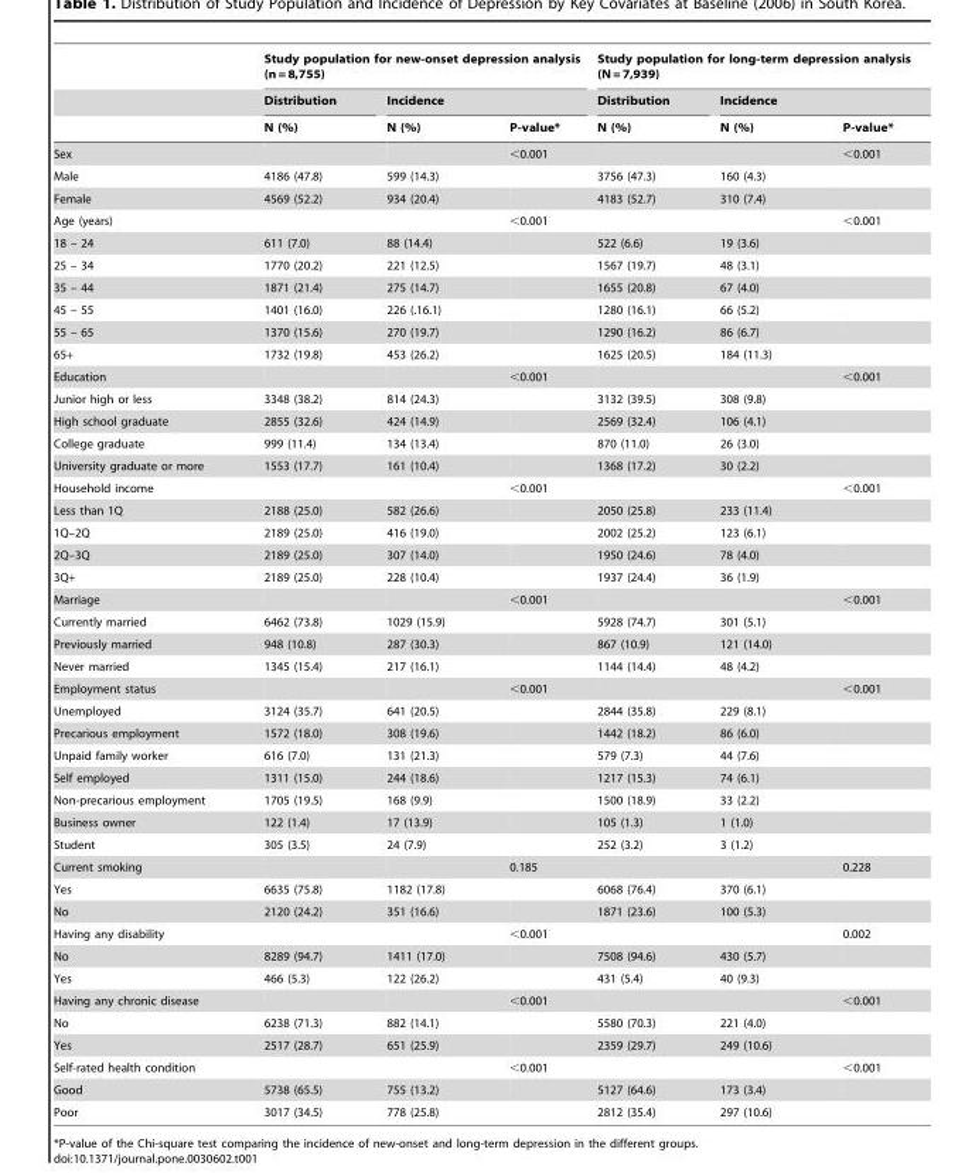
<table><thead><tr><td rowspan="3"></td><td colspan="3">Study population for new-onset depression analysis (n = 8,755)</td><td colspan="3">Study population for long-term depression analysis (N = 7,939)</td></tr><tr><td rowspan="2">Distribution N (%)</td><td colspan="2">Incidence</td><td rowspan="2">Distribution N (%)</td><td colspan="2">Incidence</td></tr><tr><td>N (%)</td><td>P-value*</td><td>N (%)</td><td>P-value*</td></tr></thead><tbody><tr><td>Sex</td><td></td><td></td><td>&lt;0.001</td><td></td><td></td><td>&lt;0.001</td></tr><tr><td>Male</td><td>4186 (47.8)</td><td>599 (14.3)</td><td></td><td>3756 (47.3)</td><td>160 (4.3)</td><td></td></tr><tr><td>Female</td><td>4569 (52.2)</td><td>934 (20.4)</td><td></td><td>4183 (52.7)</td><td>310 (7.4)</td><td></td></tr><tr><td>Age (years)</td><td></td><td></td><td>&lt;0.001</td><td></td><td></td><td>&lt;0.001</td></tr><tr><td>18 – 24</td><td>611 (7.0)</td><td>88 (14.4)</td><td></td><td>522 (6.6)</td><td>19 (3.6)</td><td></td></tr><tr><td>25 – 34</td><td>1770 (20.2)</td><td>221 (12.5)</td><td></td><td>1567 (19.7)</td><td>48 (3.1)</td><td></td></tr><tr><td>35 – 44</td><td>1871 (21.4)</td><td>275 (14.7)</td><td></td><td>1655 (20.8)</td><td>67 (4.0)</td><td></td></tr><tr><td>45 – 55</td><td>1401 (16.0)</td><td>226 (.16.1)</td><td></td><td>1280 (16.1)</td><td>66 (5.2)</td><td></td></tr><tr><td>55 – 65</td><td>1370 (15.6)</td><td>270 (19.7)</td><td></td><td>1290 (16.2)</td><td>86 (6.7)</td><td></td></tr><tr><td>65+</td><td>1732 (19.8)</td><td>453 (26.2)</td><td></td><td>1625 (20.5)</td><td>184 (11.3)</td><td></td></tr><tr><td>Education</td><td></td><td></td><td>&lt;0.001</td><td></td><td></td><td>&lt;0.001</td></tr><tr><td>Junior high or less</td><td>3348 (38.2)</td><td>814 (24.3)</td><td></td><td>3132 (39.5)</td><td>308 (9.8)</td><td></td></tr><tr><td>High school graduate</td><td>2855 (32.6)</td><td>424 (14.9)</td><td></td><td>2569 (32.4)</td><td>106 (4.1)</td><td></td></tr><tr><td>College graduate</td><td>999 (11.4)</td><td>134 (13.4)</td><td></td><td>870 (11.0)</td><td>26 (3.0)</td><td></td></tr><tr><td>University graduate or more</td><td>1553 (17.7)</td><td>161 (10.4)</td><td></td><td>1368 (17.2)</td><td>30 (2.2)</td><td></td></tr><tr><td>Household income</td><td></td><td></td><td>&lt;0.001</td><td></td><td></td><td>&lt;0.001</td></tr><tr><td>Less than 1Q</td><td>2188 (25.0)</td><td>582 (26.6)</td><td></td><td>2050 (25.8)</td><td>233 (11.4)</td><td></td></tr><tr><td>1Q–2Q</td><td>2189 (25.0)</td><td>416 (19.0)</td><td></td><td>2002 (25.2)</td><td>123 (6.1)</td><td></td></tr><tr><td>2Q–3Q</td><td>2189 (25.0)</td><td>307 (14.0)</td><td></td><td>1950 (24.6)</td><td>78 (4.0)</td><td></td></tr><tr><td>3Q+</td><td>2189 (25.0)</td><td>228 (10.4)</td><td></td><td>1937 (24.4)</td><td>36 (1.9)</td><td></td></tr><tr><td>Marriage</td><td></td><td></td><td>&lt;0.001</td><td></td><td></td><td>&lt;0.001</td></tr><tr><td>Currently married</td><td>6462 (73.8)</td><td>1029 (15.9)</td><td></td><td>5928 (74.7)</td><td>301 (5.1)</td><td></td></tr><tr><td>Previously married</td><td>948 (10.8)</td><td>287 (30.3)</td><td></td><td>867 (10.9)</td><td>121 (14.0)</td><td></td></tr><tr><td>Never married</td><td>1345 (15.4)</td><td>217 (16.1)</td><td></td><td>1144 (14.4)</td><td>48 (4.2)</td><td></td></tr><tr><td>Employment status</td><td></td><td></td><td>&lt;0.001</td><td></td><td></td><td>&lt;0.001</td></tr><tr><td>Unemployed</td><td>3124 (35.7)</td><td>641 (20.5)</td><td></td><td>2844 (35.8)</td><td>229 (8.1)</td><td></td></tr><tr><td>Precarious employment</td><td>1572 (18.0)</td><td>308 (19.6)</td><td></td><td>1442 (18.2)</td><td>86 (6.0)</td><td></td></tr><tr><td>Unpaid family worker</td><td>616 (7.0)</td><td>131 (21.3)</td><td></td><td>579 (7.3)</td><td>44 (7.6)</td><td></td></tr><tr><td>Self employed</td><td>1311 (15.0)</td><td>244 (18.6)</td><td></td><td>1217 (15.3)</td><td>74 (6.1)</td><td></td></tr><tr><td>Non-precarious employment</td><td>1705 (19.5)</td><td>168 (9.9)</td><td></td><td>1500 (18.9)</td><td>33 (2.2)</td><td></td></tr><tr><td>Business owner</td><td>122 (1.4)</td><td>17 (13.9)</td><td></td><td>105 (1.3)</td><td>1 (1.0)</td><td></td></tr><tr><td>Student</td><td>305 (3.5)</td><td>24 (7.9)</td><td></td><td>252 (3.2)</td><td>3 (1.2)</td><td></td></tr><tr><td>Current smoking</td><td></td><td></td><td>0.185</td><td></td><td></td><td>0.228</td></tr><tr><td>Yes</td><td>6635 (75.8)</td><td>1182 (17.8)</td><td></td><td>6068 (76.4)</td><td>370 (6.1)</td><td></td></tr><tr><td>No</td><td>2120 (24.2)</td><td>351 (16.6)</td><td></td><td>1871 (23.6)</td><td>100 (5.3)</td><td></td></tr><tr><td>Having any disability</td><td></td><td></td><td>&lt;0.001</td><td></td><td></td><td>0.002</td></tr><tr><td>No</td><td>8289 (94.7)</td><td>1411 (17.0)</td><td></td><td>7508 (94.6)</td><td>430 (5.7)</td><td></td></tr><tr><td>Yes</td><td>466 (5.3)</td><td>122 (26.2)</td><td></td><td>431 (5.4)</td><td>40 (9.3)</td><td></td></tr><tr><td>Having any chronic disease</td><td></td><td></td><td>&lt;0.001</td><td></td><td></td><td>&lt;0.001</td></tr><tr><td>No</td><td>6238 (71.3)</td><td>882 (14.1)</td><td></td><td>5580 (70.3)</td><td>221 (4.0)</td><td></td></tr><tr><td>Yes</td><td>2517 (28.7)</td><td>651 (25.9)</td><td></td><td>2359 (29.7)</td><td>249 (10.6)</td><td></td></tr><tr><td>Self-rated health condition</td><td></td><td></td><td>&lt;0.001</td><td></td><td></td><td>&lt;0.001</td></tr><tr><td>Good</td><td>5738 (65.5)</td><td>755 (13.2)</td><td></td><td>5127 (64.6)</td><td>173 (3.4)</td><td></td></tr><tr><td>Poor</td><td>3017 (34.5)</td><td>778 (25.8)</td><td></td><td>2812 (35.4)</td><td>297 (10.6)</td><td></td></tr></tbody></table>